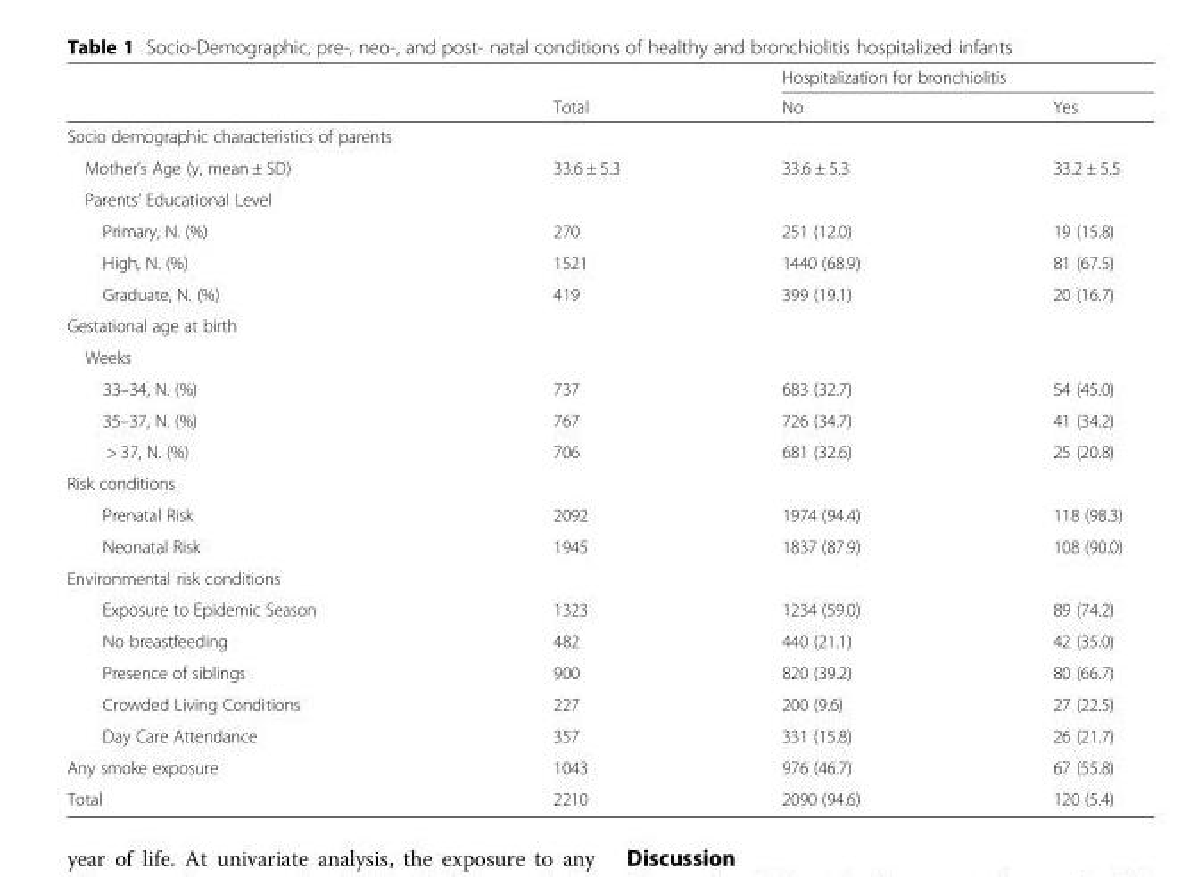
<table><thead><tr><td rowspan="2"></td><td rowspan="2">Total</td><td colspan="2">Hospitalization for bronchiolitis</td></tr><tr><td>No</td><td>Yes</td></tr></thead><tbody><tr><td colspan="4">Socio demographic characteristics of parents</td></tr><tr><td>Mother’s Age (y, mean ± SD)</td><td>33.6 ± 5.3</td><td>33.6 ± 5.3</td><td>33.2 ± 5.5</td></tr><tr><td colspan="4">Parents’ Educational Level</td></tr><tr><td>Primary, N. (%)</td><td>270</td><td>251 (12.0)</td><td>19 (15.8)</td></tr><tr><td>High, N. (%)</td><td>1521</td><td>1440 (68.9)</td><td>81 (67.5)</td></tr><tr><td>Graduate, N. (%)</td><td>419</td><td>399 (19.1)</td><td>20 (16.7)</td></tr><tr><td colspan="4">Gestational age at birth</td></tr><tr><td colspan="4">Weeks</td></tr><tr><td>33–34, N. (%)</td><td>737</td><td>683 (32.7)</td><td>54 (45.0)</td></tr><tr><td>35–37, N. (%)</td><td>767</td><td>726 (34.7)</td><td>41 (34.2)</td></tr><tr><td>&gt; 37, N. (%)</td><td>706</td><td>681 (32.6)</td><td>25 (20.8)</td></tr><tr><td colspan="4">Risk conditions</td></tr><tr><td>Prenatal Risk</td><td>2092</td><td>1974 (94.4)</td><td>118 (98.3)</td></tr><tr><td>Neonatal Risk</td><td>1945</td><td>1837 (87.9)</td><td>108 (90.0)</td></tr><tr><td colspan="4">Environmental risk conditions</td></tr><tr><td>Exposure to Epidemic Season</td><td>1323</td><td>1234 (59.0)</td><td>89 (74.2)</td></tr><tr><td>No breastfeeding</td><td>482</td><td>440 (21.1)</td><td>42 (35.0)</td></tr><tr><td>Presence of siblings</td><td>900</td><td>820 (39.2)</td><td>80 (66.7)</td></tr><tr><td>Crowded Living Conditions</td><td>227</td><td>200 (9.6)</td><td>27 (22.5)</td></tr><tr><td>Day Care Attendance</td><td>357</td><td>331 (15.8)</td><td>26 (21.7)</td></tr><tr><td>Any smoke exposure</td><td>1043</td><td>976 (46.7)</td><td>67 (55.8)</td></tr><tr><td>Total</td><td>2210</td><td>2090 (94.6)</td><td>120 (5.4)</td></tr></tbody></table>